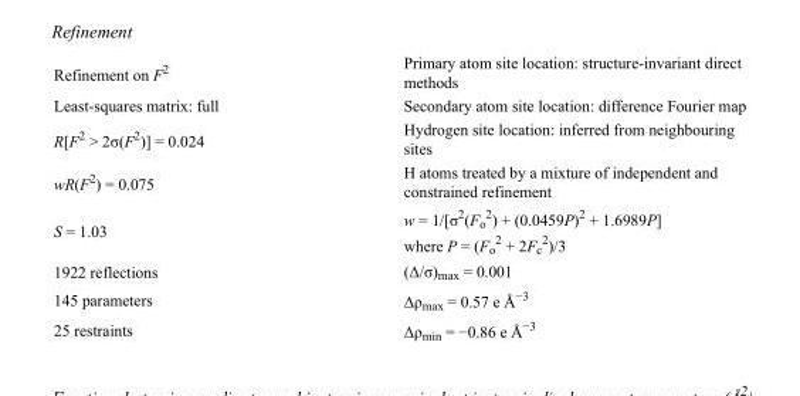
<table><tbody><tr><td>Refinement on F<sup>2</sup></td><td>Primary atom site location: structure-invariant direct methods</td></tr><tr><td>Least-squares matrix: full</td><td>Secondary atom site location: difference Fourier map</td></tr><tr><td>R[F<sup>2</sup> &gt; 2σ(F<sup>2</sup>)] = 0.024</td><td>Hydrogen site location: inferred from neighbouring sites</td></tr><tr><td>wR(F<sup>2</sup>) = 0.075</td><td>H atoms treated by a mixture of independent and constrained refinement</td></tr><tr><td>S = 1.03</td><td>w = 1/[σ<sup>2</sup>(F<sub>o</sub> <sup>2</sup>) + (0.0459P)<sup>2</sup> + 1.6989P] where P = (F<sub>o</sub> <sup>2</sup> + 2F<sub>c</sub> <sup>2</sup>)/3</td></tr><tr><td>1922 reflections</td><td>(Δ/σ)<sub>max</sub> = 0.001</td></tr><tr><td>145 parameters</td><td>Δρ<sub>max</sub> = 0.57 e Å<sup>−3</sup></td></tr><tr><td>25 restraints</td><td>Δρ<sub>min</sub> = −0.86 e Å<sup>−3</sup></td></tr></tbody></table>